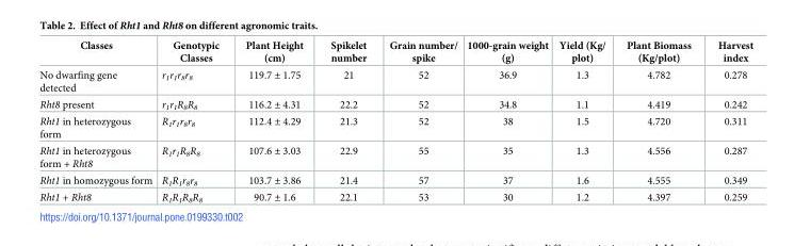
<table><thead><tr><td>Classes</td><td>Genotypic Classes</td><td>Plant Height (cm)</td><td>Spikelet number</td><td>Grain number/ spike</td><td>1000-grain weight (g)</td><td>Yield (Kg/ plot)</td><td>Plant Biomass (Kg/plot)</td><td>Harvest index</td></tr></thead><tbody><tr><td>No dwarfing gene detected</td><td>r<sub>1</sub>r<sub>1</sub>r<sub>8</sub>r<sub>8</sub></td><td>119.7 ± 1.75</td><td>21</td><td>52</td><td>36.9</td><td>1.3</td><td>4.782</td><td>0.278</td></tr><tr><td>Rht8 present</td><td>r<sub>1</sub>r<sub>1</sub>R<sub>8</sub>R<sub>8</sub></td><td>116.2 ± 4.31</td><td>22.2</td><td>52</td><td>34.8</td><td>1.1</td><td>4.419</td><td>0.242</td></tr><tr><td>Rht1 in heterozygous form</td><td>R<sub>1</sub>r<sub>1</sub>r<sub>8</sub>r<sub>8</sub></td><td>112.4 ± 4.29</td><td>21.3</td><td>52</td><td>38</td><td>1.5</td><td>4.720</td><td>0.311</td></tr><tr><td>Rht1 in heterozygous form + Rht8</td><td>R<sub>1</sub>r<sub>1</sub>R<sub>8</sub>R<sub>8</sub></td><td>107.6 ± 3.03</td><td>22.9</td><td>55</td><td>35</td><td>1.3</td><td>4.556</td><td>0.287</td></tr><tr><td>Rht1 in homozygous form</td><td>R<sub>1</sub>R<sub>1</sub>r<sub>8</sub>r<sub>8</sub></td><td>103.7 ± 3.86</td><td>21.4</td><td>57</td><td>37</td><td>1.6</td><td>4.555</td><td>0.349</td></tr><tr><td>Rht1 + Rht8</td><td>R<sub>1</sub>R<sub>1</sub>R<sub>8</sub>R<sub>8</sub></td><td>90.7 ± 1.6</td><td>22.1</td><td>53</td><td>30</td><td>1.2</td><td>4.397</td><td>0.259</td></tr></tbody></table>